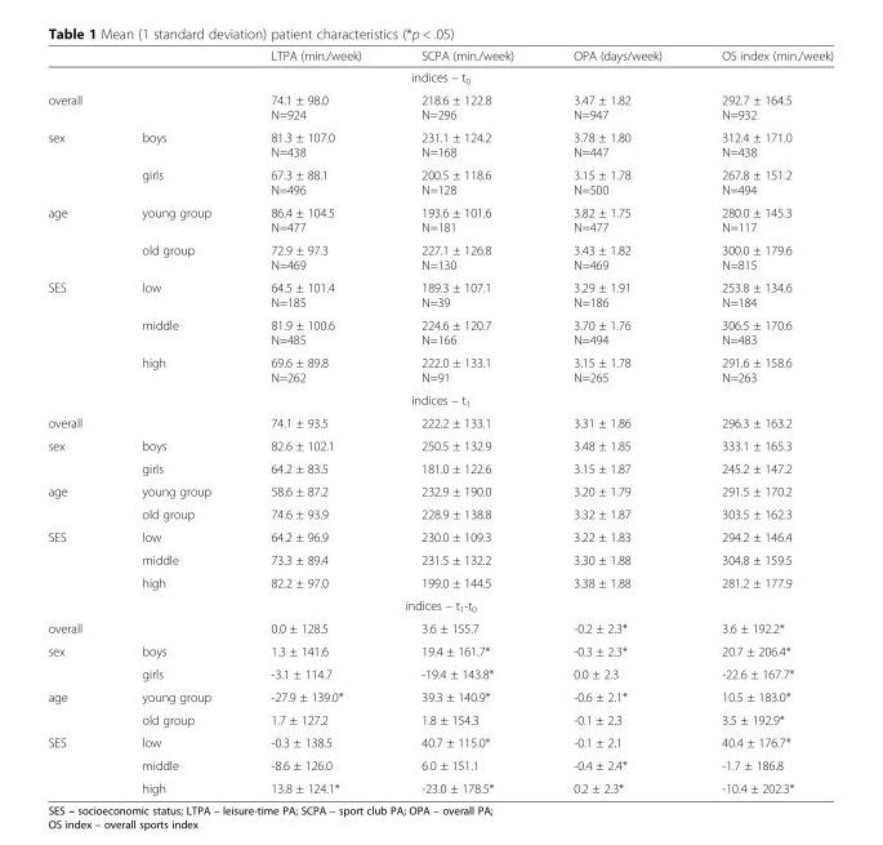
<table><thead><tr><td></td><td></td><td>LTPA (min./week)</td><td>SCPA (min./week)</td><td>OPA (days/week)</td><td>OS index (min./week)</td></tr></thead><tbody><tr><td colspan="6">indices – t<sub>0</sub></td></tr><tr><td>overall</td><td></td><td>74.1 ± 98.0 N=924</td><td>218.6 ± 122.8 N=296</td><td>3.47 ± 1.82 N=947</td><td>292.7 ± 164.5 N=932</td></tr><tr><td rowspan="2">sex</td><td>boys</td><td>81.3 ± 107.0 N=438</td><td>231.1 ± 124.2 N=168</td><td>3.78 ± 1.80 N=447</td><td>312.4 ± 171.0 N=438</td></tr><tr><td>girls</td><td>67.3 ± 88.1 N=496</td><td>200.5 ± 118.6 N=128</td><td>3.15 ± 1.78 N=500</td><td>267.8 ± 151.2 N=494</td></tr><tr><td rowspan="2">age</td><td>young group</td><td>86.4 ± 104.5 N=477</td><td>193.6 ± 101.6 N=181</td><td>3.82 ± 1.75 N=477</td><td>280.0 ± 145.3 N=117</td></tr><tr><td>old group</td><td>72.9 ± 97.3 N=469</td><td>227.1 ± 126.8 N=130</td><td>3.43 ± 1.82 N=469</td><td>300.0 ± 179.6 N=815</td></tr><tr><td rowspan="3">SES</td><td>low</td><td>64.5 ± 101.4 N=185</td><td>189.3 ± 107.1 N=39</td><td>3.29 ± 1.91 N=186</td><td>253.8 ± 134.6 N=184</td></tr><tr><td>middle</td><td>81.9 ± 100.6 N=485</td><td>224.6 ± 120.7 N=166</td><td>3.70 ± 1.76 N=494</td><td>306.5 ± 170.6 N=483</td></tr><tr><td>high</td><td>69.6 ± 89.8 N=262</td><td>222.0 ± 133.1 N=91</td><td>3.15 ± 1.78 N=265</td><td>291.6 ± 158.6 N=263</td></tr><tr><td colspan="6">indices – t<sub>1</sub></td></tr><tr><td>overall</td><td></td><td>74.1 ± 93.5</td><td>222.2 ± 133.1</td><td>3.31 ± 1.86</td><td>296.3 ± 163.2</td></tr><tr><td rowspan="2">sex</td><td>boys</td><td>82.6 ± 102.1</td><td>250.5 ± 132.9</td><td>3.48 ± 1.85</td><td>333.1 ± 165.3</td></tr><tr><td>girls</td><td>64.2 ± 83.5</td><td>181.0 ± 122.6</td><td>3.15 ± 1.87</td><td>245.2 ± 147.2</td></tr><tr><td rowspan="2">age</td><td>young group</td><td>58.6 ± 87.2</td><td>232.9 ± 190.0</td><td>3.20 ± 1.79</td><td>291.5 ± 170.2</td></tr><tr><td>old group</td><td>74.6 ± 93.9</td><td>228.9 ± 138.8</td><td>3.32 ± 1.87</td><td>303.5 ± 162.3</td></tr><tr><td rowspan="3">SES</td><td>low</td><td>64.2 ± 96.9</td><td>230.0 ± 109.3</td><td>3.22 ± 1.83</td><td>294.2 ± 146.4</td></tr><tr><td>middle</td><td>73.3 ± 89.4</td><td>231.5 ± 132.2</td><td>3.30 ± 1.88</td><td>304.8 ± 159.5</td></tr><tr><td>high</td><td>82.2 ± 97.0</td><td>199.0 ± 144.5</td><td>3.38 ± 1.88</td><td>281.2 ± 177.9</td></tr><tr><td colspan="6">indices – t<sub>1</sub>-t<sub>0</sub></td></tr><tr><td>overall</td><td></td><td>0.0 ± 128.5</td><td>3.6 ± 155.7</td><td>-0.2 ± 2.3*</td><td>3.6 ± 192.2*</td></tr><tr><td rowspan="2">sex</td><td>boys</td><td>1.3 ± 141.6</td><td>19.4 ± 161.7*</td><td>-0.3 ± 2.3*</td><td>20.7 ± 206.4*</td></tr><tr><td>girls</td><td>-3.1 ± 114.7</td><td>-19.4 ± 143.8*</td><td>0.0 ± 2.3</td><td>-22.6 ± 167.7*</td></tr><tr><td rowspan="2">age</td><td>young group</td><td>-27.9 ± 139.0*</td><td>39.3 ± 140.9*</td><td>-0.6 ± 2.1*</td><td>10.5 ± 183.0*</td></tr><tr><td>old group</td><td>1.7 ± 127.2</td><td>1.8 ± 154.3</td><td>-0.1 ± 2.3</td><td>3.5 ± 192.9*</td></tr><tr><td rowspan="3">SES</td><td>low</td><td>-0.3 ± 138.5</td><td>40.7 ± 115.0*</td><td>-0.1 ± 2.1</td><td>40.4 ± 176.7*</td></tr><tr><td>middle</td><td>-8.6 ± 126.0</td><td>6.0 ± 151.1</td><td>-0.4 ± 2.4*</td><td>-1.7 ± 186.8</td></tr><tr><td>high</td><td>13.8 ± 124.1*</td><td>-23.0 ± 178.5*</td><td>0.2 ± 2.3*</td><td>-10.4 ± 202.3*</td></tr></tbody></table>